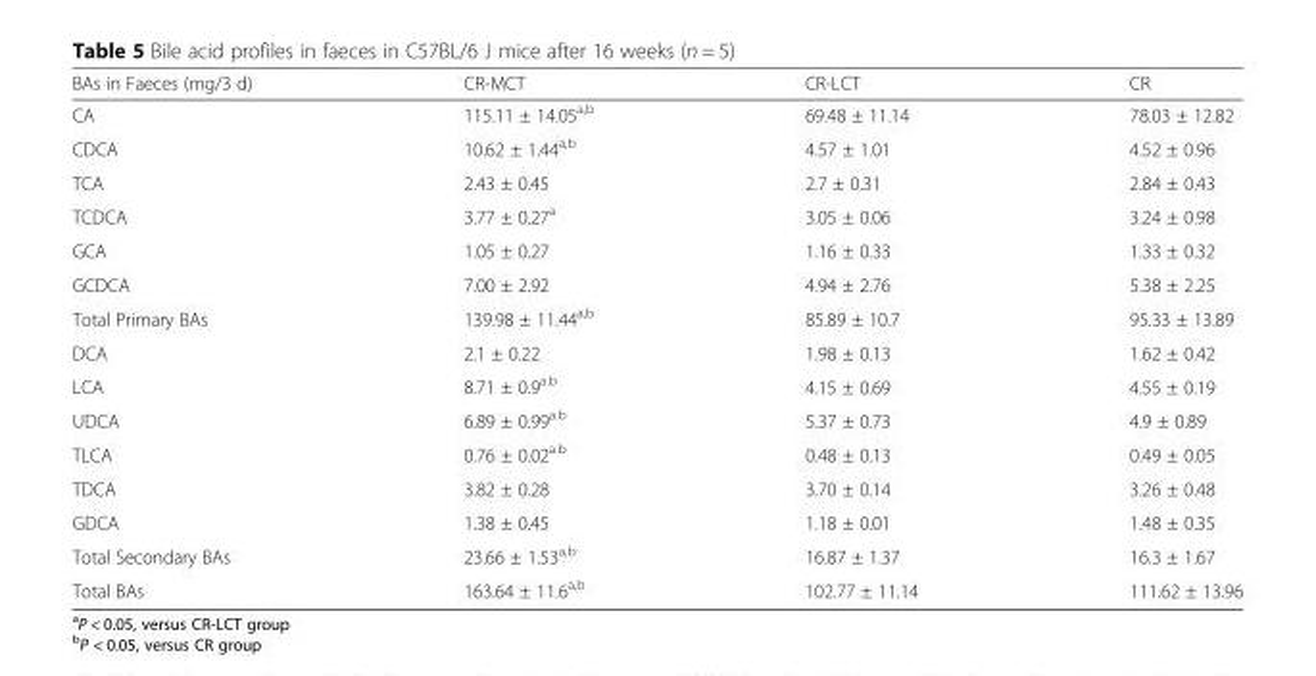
<table><thead><tr><td>BAs in Faeces (mg/3 d)</td><td>CR-MCT</td><td>CR-LCT</td><td>CR</td></tr></thead><tbody><tr><td>CA</td><td>115.11 ± 14.05<sup>a,b</sup></td><td>69.48 ± 11.14</td><td>78.03 ± 12.82</td></tr><tr><td>CDCA</td><td>10.62 ± 1.44<sup>a,b</sup></td><td>4.57 ± 1.01</td><td>4.52 ± 0.96</td></tr><tr><td>TCA</td><td>2.43 ± 0.45</td><td>2.7 ± 0.31</td><td>2.84 ± 0.43</td></tr><tr><td>TCDCA</td><td>3.77 ± 0.27<sup>a</sup></td><td>3.05 ± 0.06</td><td>3.24 ± 0.98</td></tr><tr><td>GCA</td><td>1.05 ± 0.27</td><td>1.16 ± 0.33</td><td>1.33 ± 0.32</td></tr><tr><td>GCDCA</td><td>7.00 ± 2.92</td><td>4.94 ± 2.76</td><td>5.38 ± 2.25</td></tr><tr><td>Total Primary BAs</td><td>139.98 ± 11.44<sup>a,b</sup></td><td>85.89 ± 10.7</td><td>95.33 ± 13.89</td></tr><tr><td>DCA</td><td>2.1 ± 0.22</td><td>1.98 ± 0.13</td><td>1.62 ± 0.42</td></tr><tr><td>LCA</td><td>8.71 ± 0.9<sup>a.b</sup></td><td>4.15 ± 0.69</td><td>4.55 ± 0.19</td></tr><tr><td>UDCA</td><td>6.89 ± 0.99<sup>a.b</sup></td><td>5.37 ± 0.73</td><td>4.9 ± 0.89</td></tr><tr><td>TLCA</td><td>0.76 ± 0.02<sup>a.b</sup></td><td>0.48 ± 0.13</td><td>0.49 ± 0.05</td></tr><tr><td>TDCA</td><td>3.82 ± 0.28</td><td>3.70 ± 0.14</td><td>3.26 ± 0.48</td></tr><tr><td>GDCA</td><td>1.38 ± 0.45</td><td>1.18 ± 0.01</td><td>1.48 ± 0.35</td></tr><tr><td>Total Secondary BAs</td><td>23.66 ± 1.53<sup>a,b</sup></td><td>16.87 ± 1.37</td><td>16.3 ± 1.67</td></tr><tr><td>Total BAs</td><td>163.64 ± 11.6<sup>a,b</sup></td><td>102.77 ± 11.14</td><td>111.62 ± 13.96</td></tr></tbody></table>